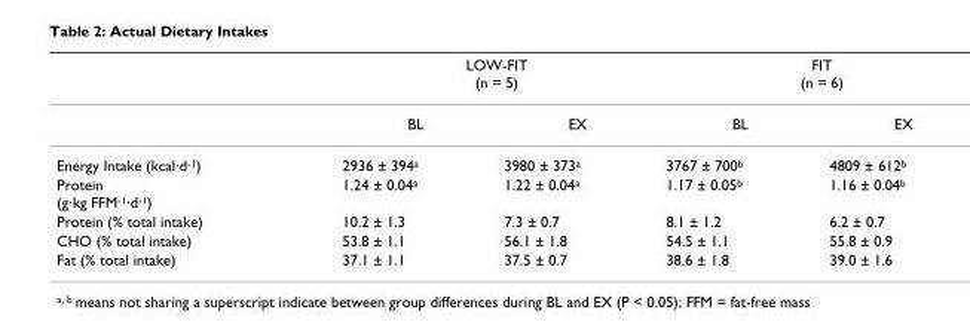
<table><thead><tr><td rowspan="2"></td><td colspan="2">LOW-FIT (n = 5)</td><td colspan="2">FIT (n = 6)</td></tr><tr><td>BL</td><td>EX</td><td>BL</td><td>EX</td></tr></thead><tbody><tr><td>Energy Intake (kcal·d<sup>-1</sup>)</td><td>2936 ± 394<sup>a</sup></td><td>3980 ± 373<sup>a</sup></td><td>3767 ± 700<sup>b</sup></td><td>4809 ± 612<sup>b</sup></td></tr><tr><td>Protein (g·kg FFM<sup>-1</sup>·d<sup>-1</sup>)</td><td>1.24 ± 0.04<sup>a</sup></td><td>1.22 ± 0.04<sup>a</sup></td><td>1.17 ± 0.05<sup>b</sup></td><td>1.16 ± 0.04<sup>b</sup></td></tr><tr><td>Protein (% total intake)</td><td>10.2 ± 1.3</td><td>7.3 ± 0.7</td><td>8.1 ± 1.2</td><td>6.2 ± 0.7</td></tr><tr><td>CHO (% total intake)</td><td>53.8 ± 1.1</td><td>56.1 ± 1.8</td><td>54.5 ± 1.1</td><td>55.8 ± 0.9</td></tr><tr><td>Fat (% total intake)</td><td>37.1 ± 1.1</td><td>37.5 ± 0.7</td><td>38.6 ± 1.8</td><td>39.0 ± 1.6</td></tr></tbody></table>